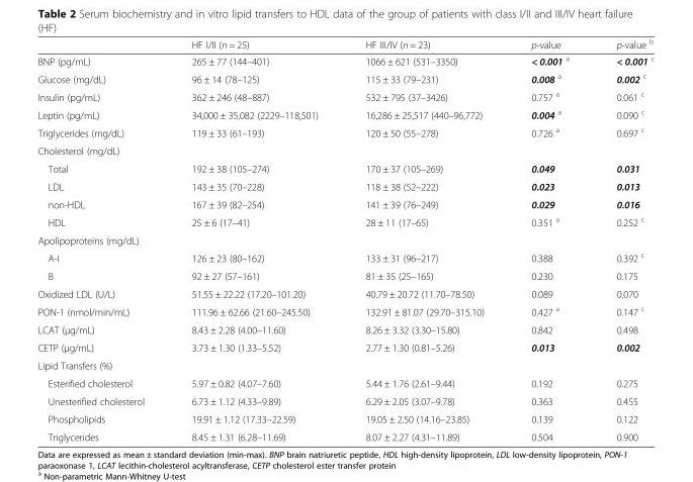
<table><thead><tr><td></td><td>HF I/II (n = 25)</td><td>HF III/IV (n = 23)</td><td>p-value</td><td>p-value <sup>b</sup></td></tr></thead><tbody><tr><td>BNP (pg/mL)</td><td>265 ± 77 (144–401)</td><td>1066 ± 621 (531–3350)</td><td>&lt; 0.001 <sup>a</sup></td><td>&lt; 0.001 <sup>c</sup></td></tr><tr><td>Glucose (mg/dL)</td><td>96 ± 14 (78–125)</td><td>115 ± 33 (79–231)</td><td>0.008 <sup>a</sup></td><td>0.002 <sup>c</sup></td></tr><tr><td>Insulin (pg/mL)</td><td>362 ± 246 (48–887)</td><td>532 ± 795 (37–3426)</td><td>0.757 <sup>a</sup></td><td>0.061 <sup>c</sup></td></tr><tr><td>Leptin (pg/mL)</td><td>34,000 ± 35,082 (2229–118,501)</td><td>16,286 ± 25,517 (440–96,772)</td><td>0.004 <sup>a</sup></td><td>0.090 <sup>c</sup></td></tr><tr><td>Triglycerides (mg/dL)</td><td>119 ± 33 (61–193)</td><td>120 ± 50 (55–278)</td><td>0.726 <sup>a</sup></td><td>0.697 <sup>c</sup></td></tr><tr><td colspan="5">Cholesterol (mg/dL)</td></tr><tr><td>Total</td><td>192 ± 38 (105–274)</td><td>170 ± 37 (105–269)</td><td>0.049</td><td>0.031</td></tr><tr><td>LDL</td><td>143 ± 35 (70–228)</td><td>118 ± 38 (52–222)</td><td>0.023</td><td>0.013</td></tr><tr><td>non-HDL</td><td>167 ± 39 (82–254)</td><td>141 ± 39 (76–249)</td><td>0.029</td><td>0.016</td></tr><tr><td>HDL</td><td>25 ± 6 (17–41)</td><td>28 ± 11 (17–65)</td><td>0.351 <sup>a</sup></td><td>0.252 <sup>c</sup></td></tr><tr><td colspan="5">Apolipoproteins (mg/dL)</td></tr><tr><td>A-I</td><td>126 ± 23 (80–162)</td><td>133 ± 31 (96–217)</td><td>0.388</td><td>0.392 <sup>c</sup></td></tr><tr><td>B</td><td>92 ± 27 (57–161)</td><td>81 ± 35 (25–165)</td><td>0.230</td><td>0.175</td></tr><tr><td>Oxidized LDL (U/L)</td><td>51.55 ± 22.22 (17.20–101.20)</td><td>40.79 ± 20.72 (11.70–78.50)</td><td>0.089</td><td>0.070</td></tr><tr><td>PON-1 (nmol/min/mL)</td><td>111.96 ± 62.66 (21.60–245.50)</td><td>132.91 ± 81.07 (29.70–315.10)</td><td>0.427 <sup>a</sup></td><td>0.147 <sup>c</sup></td></tr><tr><td>LCAT (μg/mL)</td><td>8.43 ± 2.28 (4.00–11.60)</td><td>8.26 ± 3.32 (3.30–15.80)</td><td>0.842</td><td>0.498</td></tr><tr><td>CETP (μg/mL)</td><td>3.73 ± 1.30 (1.33–5.52)</td><td>2.77 ± 1.30 (0.81–5.26)</td><td>0.013</td><td>0.002</td></tr><tr><td colspan="5">Lipid Transfers (%)</td></tr><tr><td>Esterified cholesterol</td><td>5.97 ± 0.82 (4.07–7.60)</td><td>5.44 ± 1.76 (2.61–9.44)</td><td>0.192</td><td>0.275</td></tr><tr><td>Unesterified cholesterol</td><td>6.73 ± 1.12 (4.33–9.89)</td><td>6.29 ± 2.05 (3.07–9.78)</td><td>0.363</td><td>0.455</td></tr><tr><td>Phospholipids</td><td>19.91 ± 1.12 (17.33–22.59)</td><td>19.05 ± 2.50 (14.16–23.85)</td><td>0.139</td><td>0.122</td></tr><tr><td>Triglycerides</td><td>8.45 ± 1.31 (6.28–11.69)</td><td>8.07 ± 2.27 (4.31–11.89)</td><td>0.504</td><td>0.900</td></tr></tbody></table>